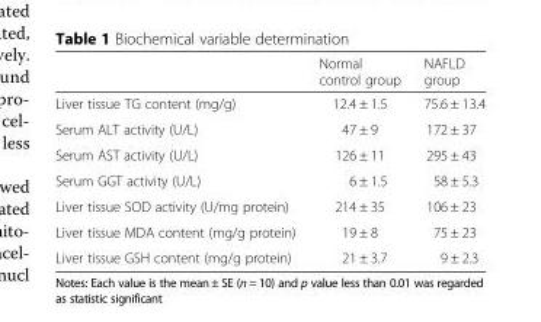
<table><thead><tr><td></td><td>Normal control group</td><td>NAFLD group</td></tr></thead><tbody><tr><td>Liver tissue TG content (mg/g)</td><td>12.4 ± 1.5</td><td>75.6 ± 13.4</td></tr><tr><td>Serum ALT activity (U/L)</td><td>47 ± 9</td><td>172 ± 37</td></tr><tr><td>Serum AST activity (U/L)</td><td>126 ± 11</td><td>295 ± 43</td></tr><tr><td>Serum GGT activity (U/L)</td><td>6 ± 1.5</td><td>58 ± 5.3</td></tr><tr><td>Liver tissue SOD activity (U/mg protein)</td><td>214 ± 35</td><td>106 ± 23</td></tr><tr><td>Liver tissue MDA content (mg/g protein)</td><td>19 ± 8</td><td>75 ± 23</td></tr><tr><td>Liver tissue GSH content (mg/g protein)</td><td>21 ± 3.7</td><td>9 ± 2.3</td></tr></tbody></table>